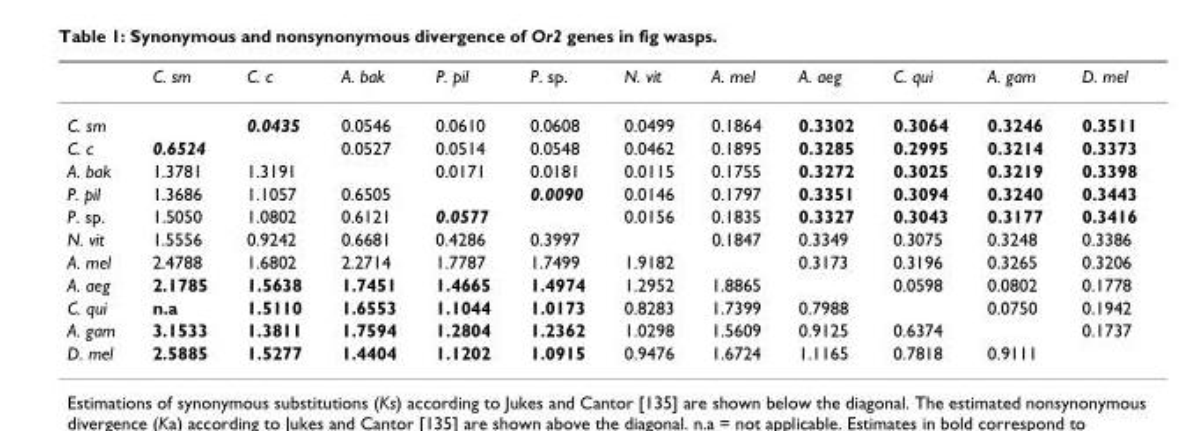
<table><thead><tr><td></td><td>C. sm</td><td>C. c</td><td>A. bak</td><td>P. pil</td><td>P. sp.</td><td>N. vit</td><td>A. mel</td><td>A. aeg</td><td>C. qui</td><td>A. gam</td><td>D. mel</td></tr></thead><tbody><tr><td>C. sm</td><td></td><td>0.0435</td><td>0.0546</td><td>0.0610</td><td>0.0608</td><td>0.0499</td><td>0.1864</td><td>0.3302</td><td>0.3064</td><td>0.3246</td><td>0.3511</td></tr><tr><td>C. c</td><td>0.6524</td><td></td><td>0.0527</td><td>0.0514</td><td>0.0548</td><td>0.0462</td><td>0.1895</td><td>0.3285</td><td>0.2995</td><td>0.3214</td><td>0.3373</td></tr><tr><td>A. bak</td><td>1.3781</td><td>1.3191</td><td></td><td>0.0171</td><td>0.0181</td><td>0.0115</td><td>0.1755</td><td>0.3272</td><td>0.3025</td><td>0.3219</td><td>0.3398</td></tr><tr><td>P. pil</td><td>1.3686</td><td>1.1057</td><td>0.6505</td><td></td><td>0.0090</td><td>0.0146</td><td>0.1797</td><td>0.3351</td><td>0.3094</td><td>0.3240</td><td>0.3443</td></tr><tr><td>P. sp.</td><td>1.5050</td><td>1.0802</td><td>0.6121</td><td>0.0577</td><td></td><td>0.0156</td><td>0.1835</td><td>0.3327</td><td>0.3043</td><td>0.3177</td><td>0.3416</td></tr><tr><td>N. vit</td><td>1.5556</td><td>0.9242</td><td>0.6681</td><td>0.4286</td><td>0.3997</td><td></td><td>0.1847</td><td>0.3349</td><td>0.3075</td><td>0.3248</td><td>0.3386</td></tr><tr><td>A. mel</td><td>2.4788</td><td>1.6802</td><td>2.2714</td><td>1.7787</td><td>1.7499</td><td>1.9182</td><td></td><td>0.3173</td><td>0.3196</td><td>0.3265</td><td>0.3206</td></tr><tr><td>A. aeg</td><td>2.1785</td><td>1.5638</td><td>1.7451</td><td>1.4665</td><td>1.4974</td><td>1.2952</td><td>1.8865</td><td></td><td>0.0598</td><td>0.0802</td><td>0.1778</td></tr><tr><td>C. qui</td><td>n.a</td><td>1.5110</td><td>1.6553</td><td>1.1044</td><td>1.0173</td><td>0.8283</td><td>1.7399</td><td>0.7988</td><td></td><td>0.0750</td><td>0.1942</td></tr><tr><td>A. gam</td><td>3.1533</td><td>1.3811</td><td>1.7594</td><td>1.2804</td><td>1.2362</td><td>1.0298</td><td>1.5609</td><td>0.9125</td><td>0.6374</td><td></td><td>0.1737</td></tr><tr><td>D. mel</td><td>2.5885</td><td>1.5277</td><td>1.4404</td><td>1.1202</td><td>1.0915</td><td>0.9476</td><td>1.6724</td><td>1.1165</td><td>0.7818</td><td>0.9111</td><td></td></tr></tbody></table>